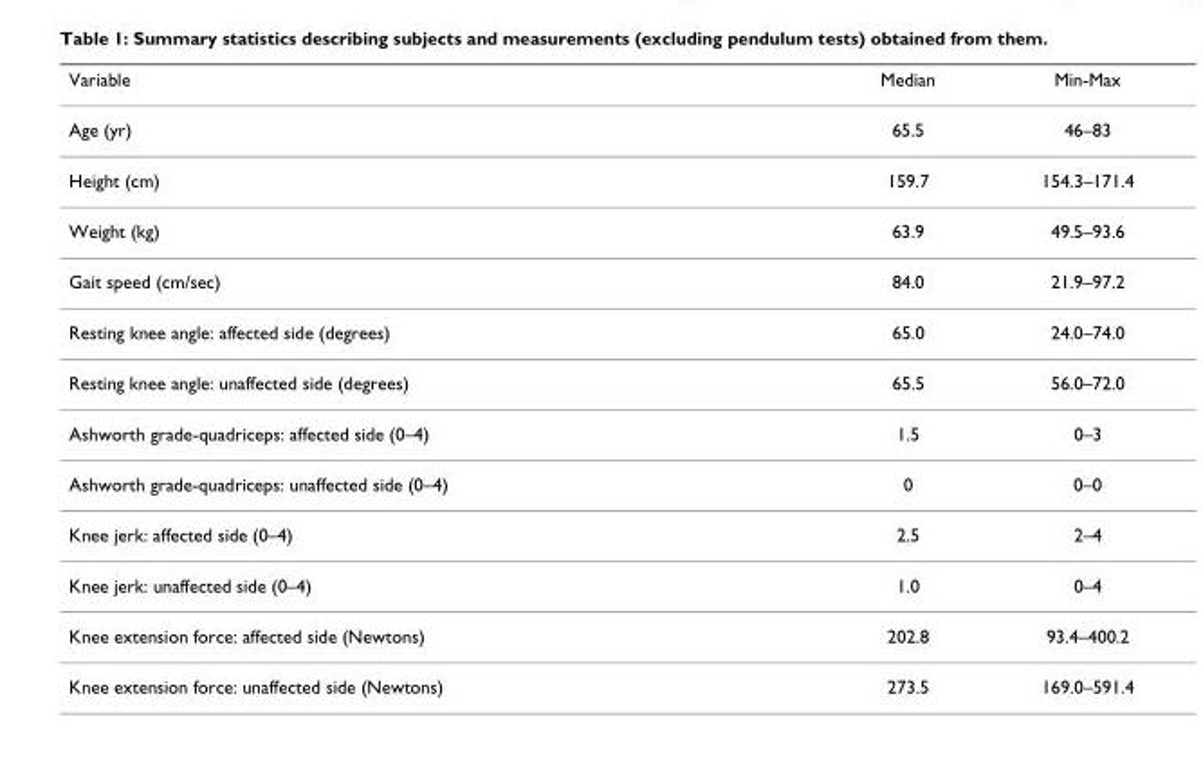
<table><thead><tr><td>Variable</td><td>Median</td><td>Min-Max</td></tr></thead><tbody><tr><td>Age (yr)</td><td>65.5</td><td>46–83</td></tr><tr><td>Height (cm)</td><td>159.7</td><td>154.3–171.4</td></tr><tr><td>Weight (kg)</td><td>63.9</td><td>49.5–93.6</td></tr><tr><td>Gait speed (cm/sec)</td><td>84.0</td><td>21.9–97.2</td></tr><tr><td>Resting knee angle: affected side (degrees)</td><td>65.0</td><td>24.0–74.0</td></tr><tr><td>Resting knee angle: unaffected side (degrees)</td><td>65.5</td><td>56.0–72.0</td></tr><tr><td>Ashworth grade-quadriceps: affected side (0–4)</td><td>1.5</td><td>0–3</td></tr><tr><td>Ashworth grade-quadriceps: unaffected side (0–4)</td><td>0</td><td>0–0</td></tr><tr><td>Knee jerk: affected side (0–4)</td><td>2.5</td><td>2–4</td></tr><tr><td>Knee jerk: unaffected side (0–4)</td><td>1.0</td><td>0–4</td></tr><tr><td>Knee extension force: affected side (Newtons)</td><td>202.8</td><td>93.4–400.2</td></tr><tr><td>Knee extension force: unaffected side (Newtons)</td><td>273.5</td><td>169.0–591.4</td></tr></tbody></table>